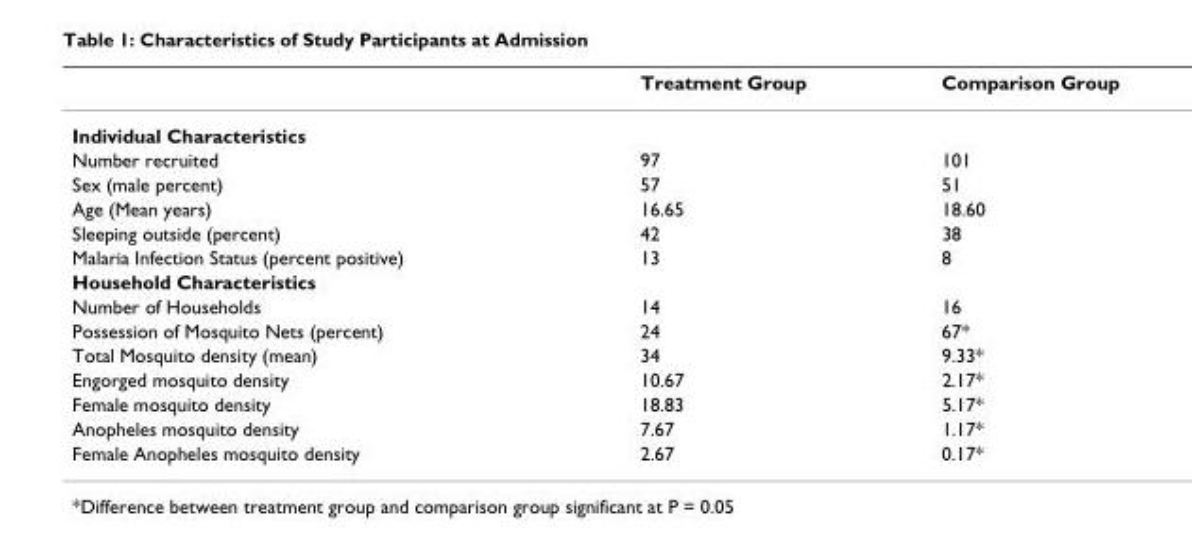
<table><thead><tr><td></td><td>Treatment Group</td><td>Comparison Group</td></tr></thead><tbody><tr><td colspan="3">Individual Characteristics</td></tr><tr><td>Number recruited</td><td>97</td><td>101</td></tr><tr><td>Sex (male percent)</td><td>57</td><td>51</td></tr><tr><td>Age (Mean years)</td><td>16.65</td><td>18.60</td></tr><tr><td>Sleeping outside (percent)</td><td>42</td><td>38</td></tr><tr><td>Malaria Infection Status (percent positive)</td><td>13</td><td>8</td></tr><tr><td colspan="3">Household Characteristics</td></tr><tr><td>Number of Households</td><td>14</td><td>16</td></tr><tr><td>Possession of Mosquito Nets (percent)</td><td>24</td><td>67*</td></tr><tr><td>Total Mosquito density (mean)</td><td>34</td><td>9.33*</td></tr><tr><td>Engorged mosquito density</td><td>10.67</td><td>2.17*</td></tr><tr><td>Female mosquito density</td><td>18.83</td><td>5.17*</td></tr><tr><td>Anopheles mosquito density</td><td>7.67</td><td>1.17*</td></tr><tr><td>Female Anopheles mosquito density</td><td>2.67</td><td>0.17*</td></tr></tbody></table>